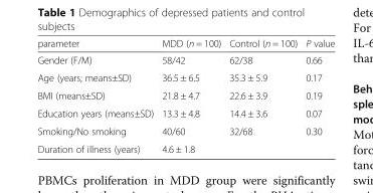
<table><thead><tr><td>parameter</td><td>MDD (n = 100)</td><td>Control (n = 100)</td><td>P value</td></tr></thead><tbody><tr><td>Gender (F/M)</td><td>58/42</td><td>62/38</td><td>0.66</td></tr><tr><td>Age (years; means±SD)</td><td>36.5 ± 6.5</td><td>35.3 ± 5.9</td><td>0.17</td></tr><tr><td>BMI (means±SD)</td><td>21.8 ± 4.7</td><td>22.6 ± 3.9</td><td>0.19</td></tr><tr><td>Education years (means±SD)</td><td>13.3 ± 4.8</td><td>14.4 ± 3.6</td><td>0.07</td></tr><tr><td>Smoking/No smoking</td><td>40/60</td><td>32/68</td><td>0.30</td></tr><tr><td>Duration of illness (years)</td><td>4.6 ± 1.8</td><td></td><td></td></tr></tbody></table>